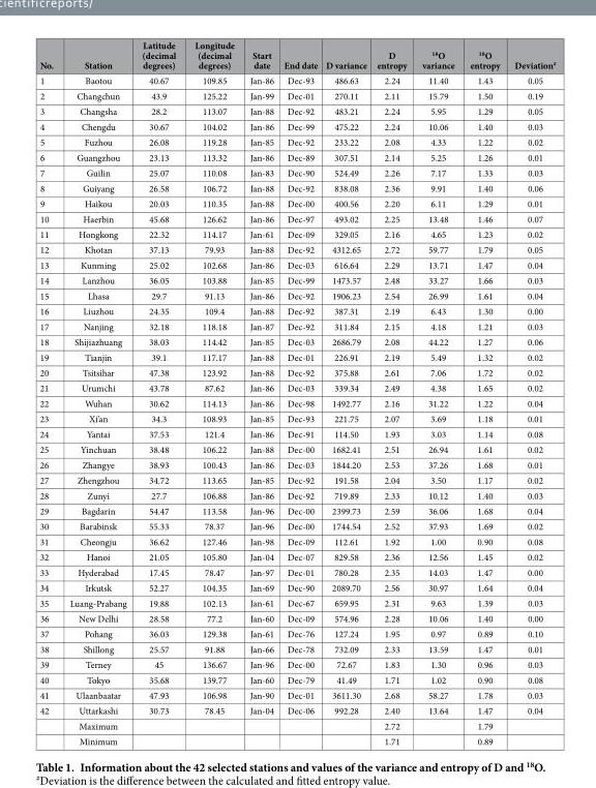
<table><thead><tr><td>No.</td><td>Station</td><td>Latitude (decimal degrees)</td><td>Longitude (decimal degrees)</td><td>Start date</td><td>End date</td><td>D variance</td><td>D entropy</td><td><sup>18</sup>O variance</td><td><sup>18</sup>O entropy</td><td>Deviation#</td></tr></thead><tbody><tr><td>1</td><td>Baotou</td><td>40.67</td><td>109.85</td><td>Jan-86</td><td>Dec-93</td><td>486.63</td><td>2.24</td><td>11.40</td><td>1.43</td><td>0.05</td></tr><tr><td>2</td><td>Changchun</td><td>43.9</td><td>125.22</td><td>Jan-99</td><td>Dec-01</td><td>270.11</td><td>2.11</td><td>15.79</td><td>1.50</td><td>0.19</td></tr><tr><td>3</td><td>Changsha</td><td>28.2</td><td>113.07</td><td>Jan-88</td><td>Dec-92</td><td>483.21</td><td>2.24</td><td>5.95</td><td>1.29</td><td>0.05</td></tr><tr><td>4</td><td>Chengdu</td><td>30.67</td><td>104.02</td><td>Jan-86</td><td>Dec-99</td><td>475.22</td><td>2.24</td><td>10.06</td><td>1.40</td><td>0.03</td></tr><tr><td>5</td><td>Fuzhou</td><td>26.08</td><td>119.28</td><td>Jan-85</td><td>Dec-92</td><td>233.22</td><td>2.08</td><td>4.33</td><td>1.22</td><td>0.02</td></tr><tr><td>6</td><td>Guangzhou</td><td>23.13</td><td>113.32</td><td>Jan-86</td><td>Dec-89</td><td>307.51</td><td>2.14</td><td>5.25</td><td>1.26</td><td>0.01</td></tr><tr><td>7</td><td>Guilin</td><td>25.07</td><td>110.08</td><td>Jan-83</td><td>Dec-90</td><td>524.49</td><td>2.26</td><td>7.17</td><td>1.33</td><td>0.03</td></tr><tr><td>8</td><td>Guiyang</td><td>26.58</td><td>106.72</td><td>Jan-88</td><td>Dec-92</td><td>838.08</td><td>2.36</td><td>9.91</td><td>1.40</td><td>0.06</td></tr><tr><td>9</td><td>Haikou</td><td>20.03</td><td>110.35</td><td>Jan-88</td><td>Dec-00</td><td>400.56</td><td>2.20</td><td>6.11</td><td>1.29</td><td>0.01</td></tr><tr><td>10</td><td>Haerbin</td><td>45.68</td><td>126.62</td><td>Jan-86</td><td>Dec-97</td><td>493.02</td><td>2.25</td><td>13.48</td><td>1.46</td><td>0.07</td></tr><tr><td>11</td><td>Hongkong</td><td>22.32</td><td>114.17</td><td>Jan-61</td><td>Dec-09</td><td>329.05</td><td>2.16</td><td>4.65</td><td>1.23</td><td>0.02</td></tr><tr><td>12</td><td>Khotan</td><td>37.13</td><td>79.93</td><td>Jan-88</td><td>Dec-92</td><td>4312.65</td><td>2.72</td><td>59.77</td><td>1.79</td><td>0.05</td></tr><tr><td>13</td><td>Kunming</td><td>25.02</td><td>102.68</td><td>Jan-86</td><td>Dec-03</td><td>616.64</td><td>2.29</td><td>13.71</td><td>1.47</td><td>0.04</td></tr><tr><td>14</td><td>Lanzhou</td><td>36.05</td><td>103.88</td><td>Jan-85</td><td>Dec-99</td><td>1473.57</td><td>2.48</td><td>33.27</td><td>1.66</td><td>0.03</td></tr><tr><td>15</td><td>Lhasa</td><td>29.7</td><td>91.13</td><td>Jan-86</td><td>Dec-92</td><td>1906.23</td><td>2.54</td><td>26.99</td><td>1.61</td><td>0.04</td></tr><tr><td>16</td><td>Liuzhou</td><td>24.35</td><td>109.4</td><td>Jan-88</td><td>Dec-92</td><td>387.31</td><td>2.19</td><td>6.43</td><td>1.30</td><td>0.00</td></tr><tr><td>17</td><td>Nanjing</td><td>32.18</td><td>118.18</td><td>Jan-87</td><td>Dec-92</td><td>311.84</td><td>2.15</td><td>4.18</td><td>1.21</td><td>0.03</td></tr><tr><td>18</td><td>Shijiazhuang</td><td>38.03</td><td>114.42</td><td>Jan-85</td><td>Dec-03</td><td>2686.79</td><td>2.08</td><td>44.22</td><td>1.27</td><td>0.06</td></tr><tr><td>19</td><td>Tianjin</td><td>39.1</td><td>117.17</td><td>Jan-88</td><td>Dec-01</td><td>226.91</td><td>2.19</td><td>5.49</td><td>1.32</td><td>0.02</td></tr><tr><td>20</td><td>Tsitsihar</td><td>47.38</td><td>123.92</td><td>Jan-88</td><td>Dec-92</td><td>375.88</td><td>2.61</td><td>7.06</td><td>1.72</td><td>0.02</td></tr><tr><td>21</td><td>Urumchi</td><td>43.78</td><td>87.62</td><td>Jan-86</td><td>Dec-03</td><td>339.34</td><td>2.49</td><td>4.38</td><td>1.65</td><td>0.02</td></tr><tr><td>22</td><td>Wuhan</td><td>30.62</td><td>114.13</td><td>Jan-86</td><td>Dec-98</td><td>1492.77</td><td>2.16</td><td>31.22</td><td>1.22</td><td>0.04</td></tr><tr><td>23</td><td>Xi’an</td><td>34.3</td><td>108.93</td><td>Jan-85</td><td>Dec-93</td><td>221.75</td><td>2.07</td><td>3.69</td><td>1.18</td><td>0.01</td></tr><tr><td>24</td><td>Yantai</td><td>37.53</td><td>121.4</td><td>Jan-86</td><td>Dec-91</td><td>114.50</td><td>1.93</td><td>3.03</td><td>1.14</td><td>0.08</td></tr><tr><td>25</td><td>Yinchuan</td><td>38.48</td><td>106.22</td><td>Jan-88</td><td>Dec-00</td><td>1682.41</td><td>2.51</td><td>26.94</td><td>1.61</td><td>0.02</td></tr><tr><td>26</td><td>Zhangye</td><td>38.93</td><td>100.43</td><td>Jan-86</td><td>Dec-03</td><td>1844.20</td><td>2.53</td><td>37.26</td><td>1.68</td><td>0.01</td></tr><tr><td>27</td><td>Zhengzhou</td><td>34.72</td><td>113.65</td><td>Jan-85</td><td>Dec-92</td><td>191.58</td><td>2.04</td><td>3.50</td><td>1.17</td><td>0.02</td></tr><tr><td>28</td><td>Zunyi</td><td>27.7</td><td>106.88</td><td>Jan-86</td><td>Dec-92</td><td>719.89</td><td>2.33</td><td>10.12</td><td>1.40</td><td>0.03</td></tr><tr><td>29</td><td>Bagdarin</td><td>54.47</td><td>113.58</td><td>Jan-96</td><td>Dec-00</td><td>2399.73</td><td>2.59</td><td>36.06</td><td>1.68</td><td>0.04</td></tr><tr><td>30</td><td>Barabinsk</td><td>55.33</td><td>78.37</td><td>Jan-96</td><td>Dec-00</td><td>1744.54</td><td>2.52</td><td>37.93</td><td>1.69</td><td>0.02</td></tr><tr><td>31</td><td>Cheongju</td><td>36.62</td><td>127.46</td><td>Jan-98</td><td>Dec-09</td><td>112.61</td><td>1.92</td><td>1.00</td><td>0.90</td><td>0.08</td></tr><tr><td>32</td><td>Hanoi</td><td>21.05</td><td>105.80</td><td>Jan-04</td><td>Dec-07</td><td>829.58</td><td>2.36</td><td>12.56</td><td>1.45</td><td>0.02</td></tr><tr><td>33</td><td>Hyderabad</td><td>17.45</td><td>78.47</td><td>Jan-97</td><td>Dec-01</td><td>780.28</td><td>2.35</td><td>14.03</td><td>1.47</td><td>0.00</td></tr><tr><td>34</td><td>Irkutsk</td><td>52.27</td><td>104.35</td><td>Jan-69</td><td>Dec-90</td><td>2089.70</td><td>2.56</td><td>30.97</td><td>1.64</td><td>0.04</td></tr><tr><td>35</td><td>Luang-Prabang</td><td>19.88</td><td>102.13</td><td>Jan-61</td><td>Dec-67</td><td>659.95</td><td>2.31</td><td>9.63</td><td>1.39</td><td>0.03</td></tr><tr><td>36</td><td>New Delhi</td><td>28.58</td><td>77.2</td><td>Jan-60</td><td>Dec-09</td><td>574.96</td><td>2.28</td><td>10.06</td><td>1.40</td><td>0.00</td></tr><tr><td>37</td><td>Pohang</td><td>36.03</td><td>129.38</td><td>Jan-61</td><td>Dec-76</td><td>127.24</td><td>1.95</td><td>0.97</td><td>0.89</td><td>0.10</td></tr><tr><td>38</td><td>Shillong</td><td>25.57</td><td>91.88</td><td>Jan-66</td><td>Dec-78</td><td>732.09</td><td>2.33</td><td>13.59</td><td>1.47</td><td>0.01</td></tr><tr><td>39</td><td>Terney</td><td>45</td><td>136.67</td><td>Jan-96</td><td>Dec-00</td><td>72.67</td><td>1.83</td><td>1.30</td><td>0.96</td><td>0.03</td></tr><tr><td>40</td><td>Tokyo</td><td>35.68</td><td>139.77</td><td>Jan-60</td><td>Dec-79</td><td>41.49</td><td>1.71</td><td>1.02</td><td>0.90</td><td>0.08</td></tr><tr><td>41</td><td>Ulaanbaatar</td><td>47.93</td><td>106.98</td><td>Jan-90</td><td>Dec-01</td><td>3611.30</td><td>2.68</td><td>58.27</td><td>1.78</td><td>0.03</td></tr><tr><td rowspan="3">42</td><td>Uttarkashi</td><td>30.73</td><td>78.45</td><td>Jan-04</td><td>Dec-06</td><td>992.28</td><td>2.40</td><td>13.64</td><td>1.47</td><td>0.04</td></tr><tr><td>Maximum</td><td></td><td></td><td></td><td></td><td></td><td>2.72</td><td></td><td>1.79</td><td></td></tr><tr><td>Minimum</td><td></td><td></td><td></td><td></td><td></td><td>1.71</td><td></td><td>0.89</td><td></td></tr></tbody></table>